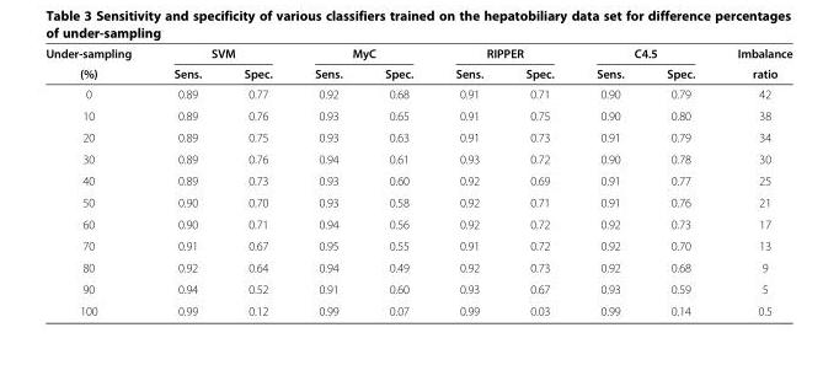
<table><thead><tr><td rowspan="2">Under-sampling (%)</td><td colspan="2">SVM</td><td colspan="2">MyC</td><td colspan="2">RIPPER</td><td colspan="2">C4.5</td><td rowspan="2">Imbalance ratio</td></tr><tr><td>Sens.</td><td>Spec.</td><td>Sens.</td><td>Spec.</td><td>Sens.</td><td>Spec.</td><td>Sens.</td><td>Spec.</td></tr></thead><tbody><tr><td>0</td><td>0.89</td><td>0.77</td><td>0.92</td><td>0.68</td><td>0.91</td><td>0.71</td><td>0.90</td><td>0.79</td><td>42</td></tr><tr><td>10</td><td>0.89</td><td>0.76</td><td>0.93</td><td>0.65</td><td>0.91</td><td>0.75</td><td>0.90</td><td>0.80</td><td>38</td></tr><tr><td>20</td><td>0.89</td><td>0.75</td><td>0.93</td><td>0.63</td><td>0.91</td><td>0.73</td><td>0.91</td><td>0.79</td><td>34</td></tr><tr><td>30</td><td>0.89</td><td>0.76</td><td>0.94</td><td>0.61</td><td>0.93</td><td>0.72</td><td>0.90</td><td>0.78</td><td>30</td></tr><tr><td>40</td><td>0.89</td><td>0.73</td><td>0.93</td><td>0.60</td><td>0.92</td><td>0.69</td><td>0.91</td><td>0.77</td><td>25</td></tr><tr><td>50</td><td>0.90</td><td>0.70</td><td>0.93</td><td>0.58</td><td>0.92</td><td>0.71</td><td>0.91</td><td>0.76</td><td>21</td></tr><tr><td>60</td><td>0.90</td><td>0.71</td><td>0.94</td><td>0.56</td><td>0.92</td><td>0.72</td><td>0.92</td><td>0.73</td><td>17</td></tr><tr><td>70</td><td>0.91</td><td>0.67</td><td>0.95</td><td>0.55</td><td>0.91</td><td>0.72</td><td>0.92</td><td>0.70</td><td>13</td></tr><tr><td>80</td><td>0.92</td><td>0.64</td><td>0.94</td><td>0.49</td><td>0.92</td><td>0.73</td><td>0.92</td><td>0.68</td><td>9</td></tr><tr><td>90</td><td>0.94</td><td>0.52</td><td>0.91</td><td>0.60</td><td>0.93</td><td>0.67</td><td>0.93</td><td>0.59</td><td>5</td></tr><tr><td>100</td><td>0.99</td><td>0.12</td><td>0.99</td><td>0.07</td><td>0.99</td><td>0.03</td><td>0.99</td><td>0.14</td><td>0.5</td></tr></tbody></table>